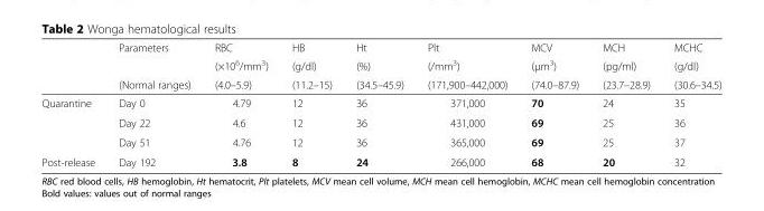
<table><thead><tr><td rowspan="3"></td><td rowspan="3">Parameters (Normal ranges)</td><td rowspan="3">RBC (×10<sup>6</sup>/mm<sup>3</sup>) (4.0–5.9)</td><td rowspan="3">HB (g/dl) (11.2–15)</td><td rowspan="3">Ht (%) (34.5–45.9)</td><td rowspan="3">Plt (/mm<sup>3</sup>) (171,900–442,000)</td><td rowspan="3">MCV (μm<sup>3</sup>) (74.0–87.9)</td><td rowspan="3">MCH (pg/ml) (23.7–28.9)</td><td rowspan="3">MCHC (g/dl) (30.6–34.5)</td></tr><tr></tr><tr></tr></thead><tbody><tr><td rowspan="3">Quarantine</td><td>Day 0</td><td>4.79</td><td>12</td><td>36</td><td>371,000</td><td>70</td><td>24</td><td>35</td></tr><tr><td>Day 22</td><td>4.6</td><td>12</td><td>36</td><td>431,000</td><td>69</td><td>25</td><td>36</td></tr><tr><td>Day 51</td><td>4.76</td><td>12</td><td>36</td><td>365,000</td><td>69</td><td>25</td><td>37</td></tr><tr><td>Post-release</td><td>Day 192</td><td>3.8</td><td>8</td><td>24</td><td>266,000</td><td>68</td><td>20</td><td>32</td></tr></tbody></table>